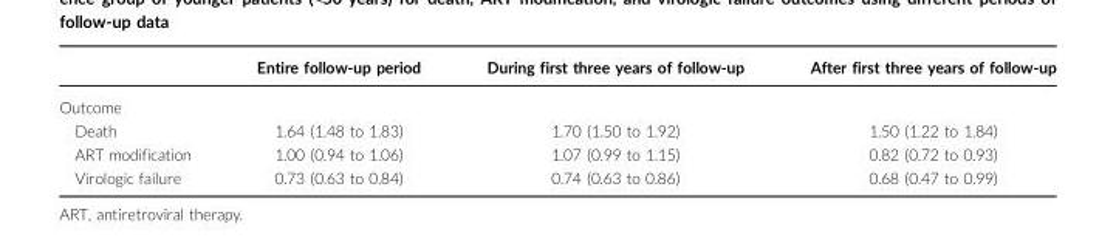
<table><thead><tr><td></td><td>Entire follow-up period</td><td>During first three years of follow-up</td><td>After first three years of follow-up</td></tr></thead><tbody><tr><td colspan="4">Outcome</td></tr><tr><td>Death</td><td>1.64 (1.48 to 1.83)</td><td>1.70 (1.50 to 1.92)</td><td>1.50 (1.22 to 1.84)</td></tr><tr><td>ART modification</td><td>1.00 (0.94 to 1.06)</td><td>1.07 (0.99 to 1.15)</td><td>0.82 (0.72 to 0.93)</td></tr><tr><td>Virologic failure</td><td>0.73 (0.63 to 0.84)</td><td>0.74 (0.63 to 0.86)</td><td>0.68 (0.47 to 0.99)</td></tr></tbody></table>